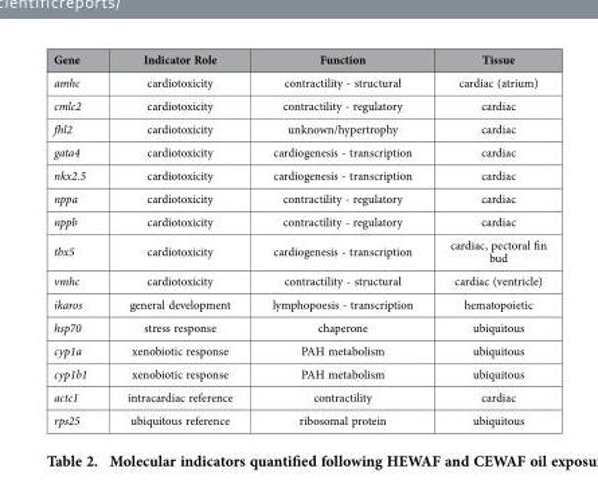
<table><thead><tr><td>Gene</td><td>Indicator Role</td><td>Function</td><td>Tissue</td></tr></thead><tbody><tr><td>amhc</td><td>cardiotoxicity</td><td>contractility - structural</td><td>cardiac (atrium)</td></tr><tr><td>cmlc2</td><td>cardiotoxicity</td><td>contractility - regulatory</td><td>cardiac</td></tr><tr><td>fhl2</td><td>cardiotoxicity</td><td>unknown/hypertrophy</td><td>cardiac</td></tr><tr><td>gata4</td><td>cardiotoxicity</td><td>cardiogenesis - transcription</td><td>cardiac</td></tr><tr><td>nkx2.5</td><td>cardiotoxicity</td><td>cardiogenesis - transcription</td><td>cardiac</td></tr><tr><td>nppa</td><td>cardiotoxicity</td><td>contractility - regulatory</td><td>cardiac</td></tr><tr><td>nppb</td><td>cardiotoxicity</td><td>contractility - regulatory</td><td>cardiac</td></tr><tr><td>tbx5</td><td>cardiotoxicity</td><td>cardiogenesis - transcription</td><td>cardiac, pectoral fin bud</td></tr><tr><td>vmhc</td><td>cardiotoxicity</td><td>contractility - structural</td><td>cardiac (ventricle)</td></tr><tr><td>ikaros</td><td>general development</td><td>lymphopoesis - transcription</td><td>hematopoietic</td></tr><tr><td>hsp70</td><td>stress response</td><td>chaperone</td><td>ubiquitous</td></tr><tr><td>cyp1a</td><td>xenobiotic response</td><td>PAH metabolism</td><td>ubiquitous</td></tr><tr><td>cyp1b1</td><td>xenobiotic response</td><td>PAH metabolism</td><td>ubiquitous</td></tr><tr><td>actc1</td><td>intracardiac reference</td><td>contractility</td><td>cardiac</td></tr><tr><td>rps25</td><td>ubiquitous reference</td><td>ribosomal protein</td><td>ubiquitous</td></tr></tbody></table>